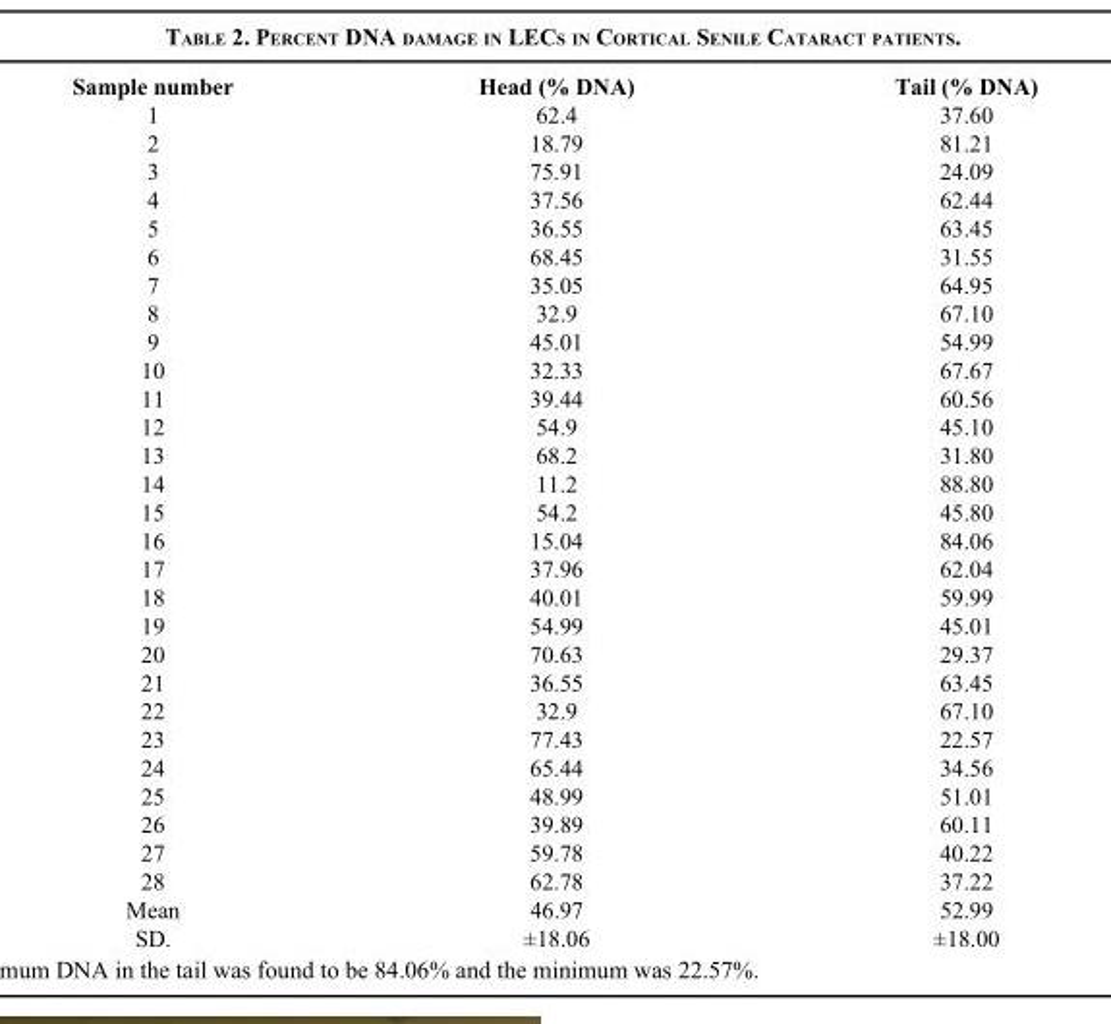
<table><thead><tr><td>Sample number</td><td>Head (% DNA)</td><td>Tail (% DNA)</td></tr></thead><tbody><tr><td>1</td><td>62.4</td><td>37.60</td></tr><tr><td>2</td><td>18.79</td><td>81.21</td></tr><tr><td>3</td><td>75.91</td><td>24.09</td></tr><tr><td>4</td><td>37.56</td><td>62.44</td></tr><tr><td>5</td><td>36.55</td><td>63.45</td></tr><tr><td>6</td><td>68.45</td><td>31.55</td></tr><tr><td>7</td><td>35.05</td><td>64.95</td></tr><tr><td>8</td><td>32.9</td><td>67.10</td></tr><tr><td>9</td><td>45.01</td><td>54.99</td></tr><tr><td>10</td><td>32.33</td><td>67.67</td></tr><tr><td>11</td><td>39.44</td><td>60.56</td></tr><tr><td>12</td><td>54.9</td><td>45.10</td></tr><tr><td>13</td><td>68.2</td><td>31.80</td></tr><tr><td>14</td><td>11.2</td><td>88.80</td></tr><tr><td>15</td><td>54.2</td><td>45.80</td></tr><tr><td>16</td><td>15.04</td><td>84.06</td></tr><tr><td>17</td><td>37.96</td><td>62.04</td></tr><tr><td>18</td><td>40.01</td><td>59.99</td></tr><tr><td>19</td><td>54.99</td><td>45.01</td></tr><tr><td>20</td><td>70.63</td><td>29.37</td></tr><tr><td>21</td><td>36.55</td><td>63.45</td></tr><tr><td>22</td><td>32.9</td><td>67.10</td></tr><tr><td>23</td><td>77.43</td><td>22.57</td></tr><tr><td>24</td><td>65.44</td><td>34.56</td></tr><tr><td>25</td><td>48.99</td><td>51.01</td></tr><tr><td>26</td><td>39.89</td><td>60.11</td></tr><tr><td>27</td><td>59.78</td><td>40.22</td></tr><tr><td>28</td><td>62.78</td><td>37.22</td></tr><tr><td>Mean</td><td>46.97</td><td>52.99</td></tr><tr><td>SD.</td><td>±18.06</td><td>±18.00</td></tr></tbody></table>